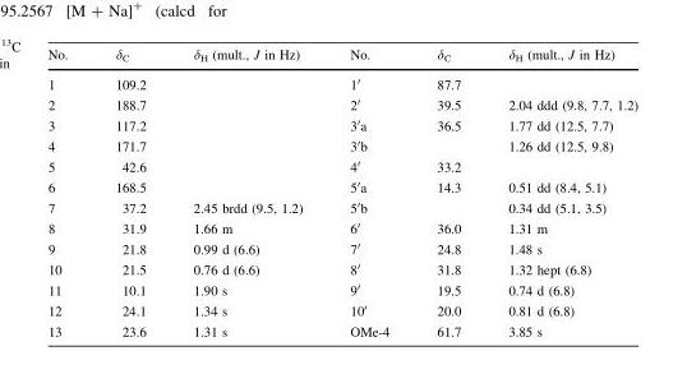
<table><thead><tr><td>No.</td><td>δ<sub>C</sub></td><td>δ<sub>H</sub> (mult., J in Hz)</td><td>No.</td><td>δ<sub>C</sub></td><td>δ<sub>H</sub> (mult., J in Hz)</td></tr></thead><tbody><tr><td>1</td><td>109.2</td><td></td><td>1′</td><td>87.7</td><td></td></tr><tr><td>2</td><td>188.7</td><td></td><td>2′</td><td>39.5</td><td>2.04 ddd (9.8, 7.7, 1.2)</td></tr><tr><td>3</td><td>117.2</td><td></td><td>3′a</td><td>36.5</td><td>1.77 dd (12.5, 7.7)</td></tr><tr><td>4</td><td>171.7</td><td></td><td>3′b</td><td></td><td>1.26 dd (12.5, 9.8)</td></tr><tr><td>5</td><td>42.6</td><td></td><td>4′</td><td>33.2</td><td></td></tr><tr><td>6</td><td>168.5</td><td></td><td>5′a</td><td>14.3</td><td>0.51 dd (8.4, 5.1)</td></tr><tr><td>7</td><td>37.2</td><td>2.45 brdd (9.5, 1.2)</td><td>5′b</td><td></td><td>0.34 dd (5.1, 3.5)</td></tr><tr><td>8</td><td>31.9</td><td>1.66 m</td><td>6′</td><td>36.0</td><td>1.31 m</td></tr><tr><td>9</td><td>21.8</td><td>0.99 d (6.6)</td><td>7′</td><td>24.8</td><td>1.48 s</td></tr><tr><td>10</td><td>21.5</td><td>0.76 d (6.6)</td><td>8′</td><td>31.8</td><td>1.32 hept (6.8)</td></tr><tr><td>11</td><td>10.1</td><td>1.90 s</td><td>9′</td><td>19.5</td><td>0.74 d (6.8)</td></tr><tr><td>12</td><td>24.1</td><td>1.34 s</td><td>10′</td><td>20.0</td><td>0.81 d (6.8)</td></tr><tr><td>13</td><td>23.6</td><td>1.31 s</td><td>OMe-4</td><td>61.7</td><td>3.85 s</td></tr></tbody></table>